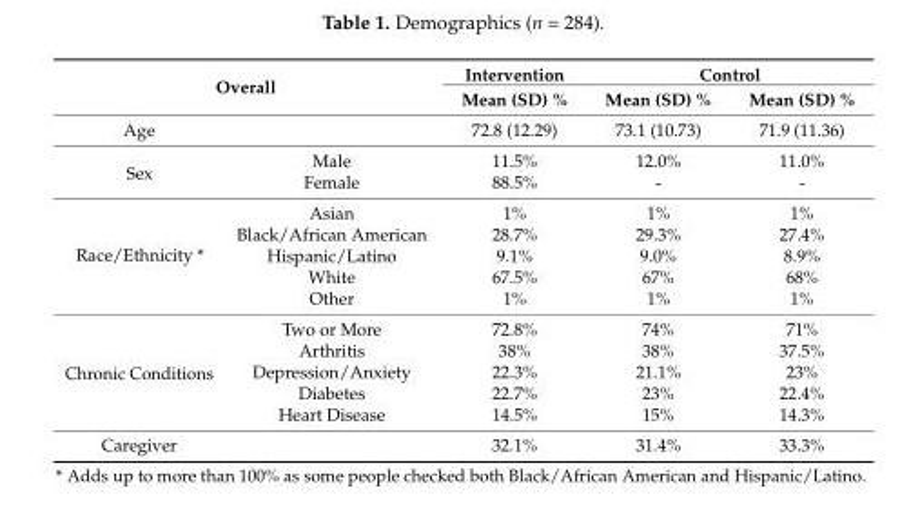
<table><thead><tr><td rowspan="2" colspan="2">Overall</td><td rowspan="3">Intervention Mean (SD) % 72.8 (12.29)</td><td colspan="2">Control</td></tr><tr><td rowspan="2">Mean (SD) % 73.1 (10.73)</td><td rowspan="2">Mean (SD) % 71.9 (11.36)</td></tr><tr><td>Age</td><td></td></tr></thead><tbody><tr><td rowspan="2">Sex</td><td>Male</td><td>11.5%</td><td>12.0%</td><td>11.0%</td></tr><tr><td>Female</td><td>88.5%</td><td>-</td><td>-</td></tr><tr><td rowspan="5">Race/Ethnicity *</td><td>Asian</td><td>1%</td><td>1%</td><td>1%</td></tr><tr><td>Black/African American</td><td>28.7%</td><td>29.3%</td><td>27.4%</td></tr><tr><td>Hispanic/Latino</td><td>9.1%</td><td>9.0%</td><td>8.9%</td></tr><tr><td>White</td><td>67.5%</td><td>67%</td><td>68%</td></tr><tr><td>Other</td><td>1%</td><td>1%</td><td>1%</td></tr><tr><td rowspan="5">Chronic Conditions</td><td>Two or More</td><td>72.8%</td><td>74%</td><td>71%</td></tr><tr><td>Arthritis</td><td>38%</td><td>38%</td><td>37.5%</td></tr><tr><td>Depression/Anxiety</td><td>22.3%</td><td>21.1%</td><td>23%</td></tr><tr><td>Diabetes</td><td>22.7%</td><td>23%</td><td>22.4%</td></tr><tr><td>Heart Disease</td><td>14.5%</td><td>15%</td><td>14.3%</td></tr><tr><td>Caregiver</td><td></td><td>32.1%</td><td>31.4%</td><td>33.3%</td></tr></tbody></table>